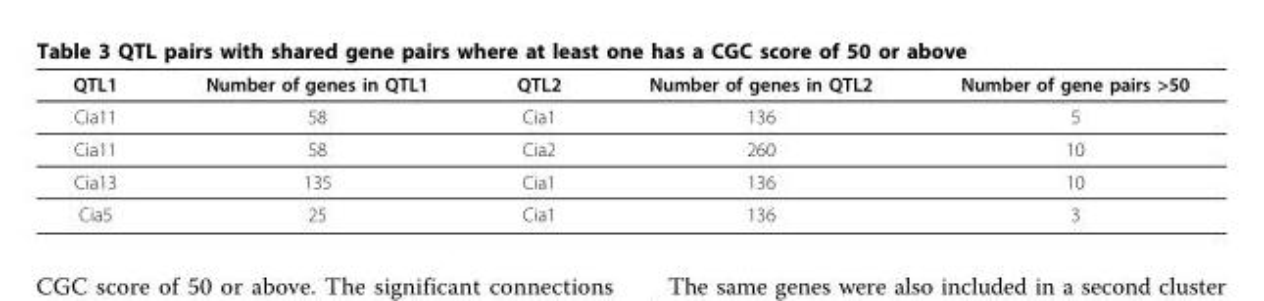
<table><thead><tr><td>QTL1</td><td>Number of genes in QTL1</td><td>QTL2</td><td>Number of genes in QTL2</td><td>Number of gene pairs &gt;50</td></tr></thead><tbody><tr><td>Cia11</td><td>58</td><td>Cia1</td><td>136</td><td>5</td></tr><tr><td>Cia11</td><td>58</td><td>Cia2</td><td>260</td><td>10</td></tr><tr><td>Cia13</td><td>135</td><td>Cia1</td><td>136</td><td>10</td></tr><tr><td>Cia5</td><td>25</td><td>Cia1</td><td>136</td><td>3</td></tr></tbody></table>